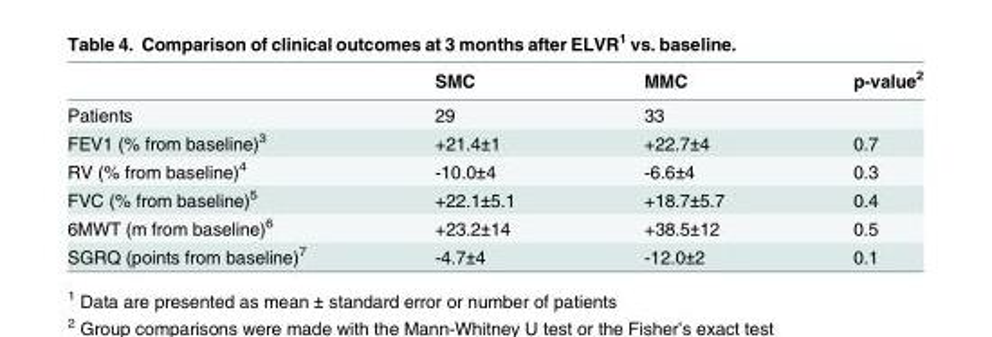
<table><thead><tr><td></td><td>SMC</td><td>MMC</td><td>p-value<sup>2</sup></td></tr></thead><tbody><tr><td>Patients</td><td>29</td><td>33</td><td></td></tr><tr><td>FEV1 (% from baseline)<sup>3</sup></td><td>+21.4±1</td><td>+22.7±4</td><td>0.7</td></tr><tr><td>RV (% from baseline)<sup>4</sup></td><td>-10.0±4</td><td>-6.6±4</td><td>0.3</td></tr><tr><td>FVC (% from baseline)<sup>5</sup></td><td>+22.1±5.1</td><td>+18.7±5.7</td><td>0.4</td></tr><tr><td>6MWT (m from baseline)<sup>6</sup></td><td>+23.2±14</td><td>+38.5±12</td><td>0.5</td></tr><tr><td>SGRQ (points from baseline)<sup>7</sup></td><td>-4.7±4</td><td>-12.0±2</td><td>0.1</td></tr></tbody></table>